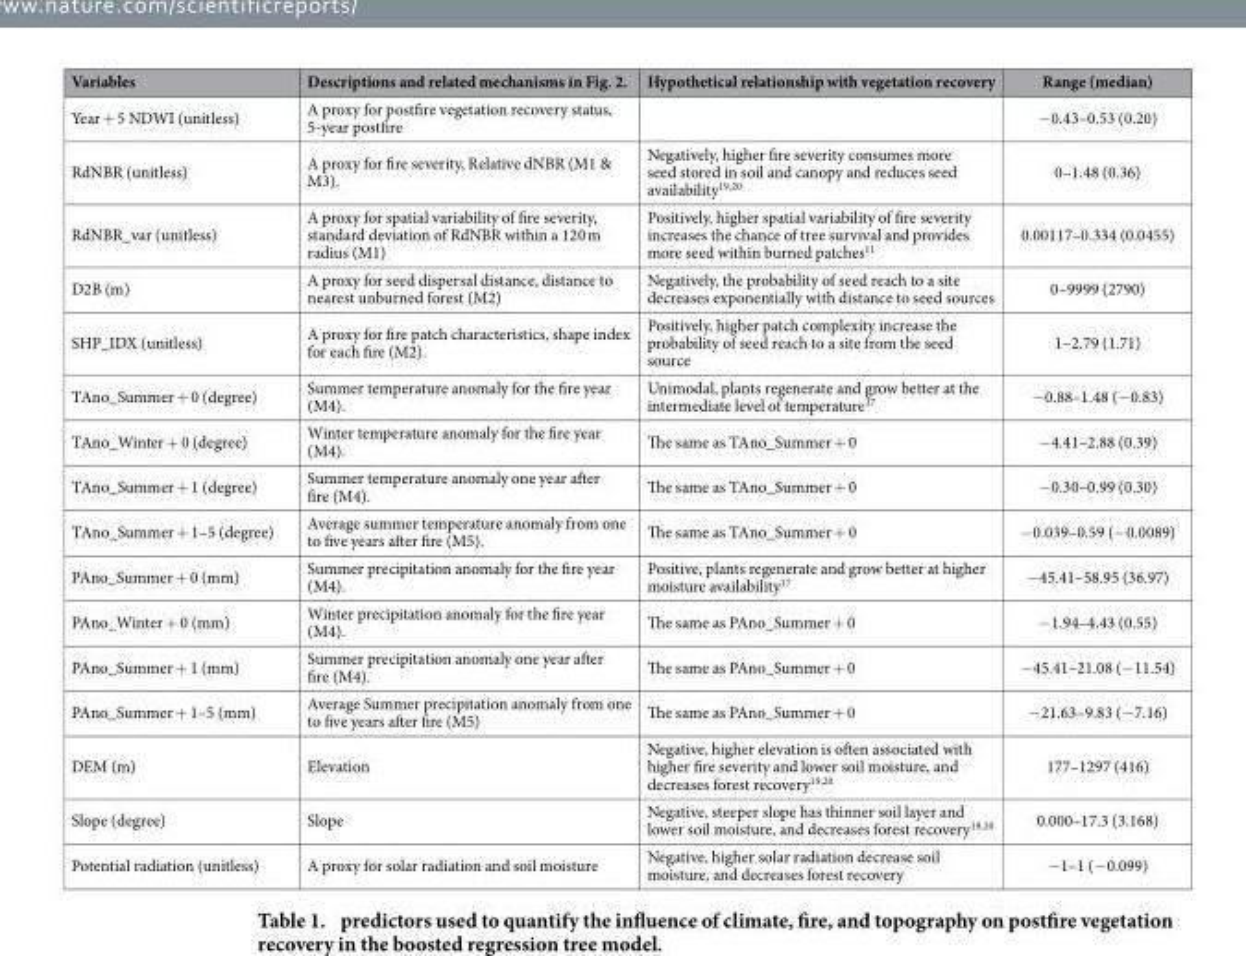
<table><thead><tr><td>Variables</td><td>Descriptions and related mechanisms in Fig. 2.</td><td>Hypothetical relationship with vegetation recovery</td><td>Range (median)</td></tr></thead><tbody><tr><td>Year + 5 NDWI (unitless)</td><td>A proxy for postfire vegetation recovery status, 5-year postfire</td><td></td><td>− 0.43–0.53 (0.20)</td></tr><tr><td>RdNBR (unitless)</td><td>A proxy for fire severity, Relative dNBR (M1 &amp; M3).</td><td>Negatively, higher fire severity consumes more seed stored in soil and canopy and reduces seed availability<sup>19</sup>,<sup>20</sup></td><td>0–1.48 (0.36)</td></tr><tr><td>RdNBR_var (unitless)</td><td>A proxy for spatial variability of fire severity, standard deviation of RdNBR within a 120 m radius (M1)</td><td>Positively, higher spatial variability of fire severity increases the chance of tree survival and provides more seed within burned patches<sup>11</sup></td><td>0.00117–0.334 (0.0455)</td></tr><tr><td>D2B (m)</td><td>A proxy for seed dispersal distance, distance to nearest unburned forest (M2)</td><td>Negatively, the probability of seed reach to a site decreases exponentially with distance to seed sources</td><td>0–9999 (2790)</td></tr><tr><td>SHP_IDX (unitless)</td><td>A proxy for fire patch characteristics, shape index for each fire (M2).</td><td>Positively, higher patch complexity increase the probability of seed reach to a site from the seed source</td><td>1–2.79 (1.71)</td></tr><tr><td>TAno_Summer + 0 (degree)</td><td>Summer temperature anomaly for the fire year (M4).</td><td>Unimodal, plants regenerate and grow better at the intermediate level of temperature<sup>17</sup></td><td>− 0.88–1.48 (− 0.83)</td></tr><tr><td>TAno_Winter + 0 (degree)</td><td>Winter temperature anomaly for the fire year (M4).</td><td>The same as TAno_Summer + 0</td><td>− 4.41–2.88 (0.39)</td></tr><tr><td>TAno_Summer + 1 (degree)</td><td>Summer temperature anomaly one year after fire (M4).</td><td>The same as TAno_Summer + 0</td><td>− 0.30–0.99 (0.30)</td></tr><tr><td>TAno_Summer + 1–5 (degree)</td><td>Average summer temperature anomaly from one to five years after fire (M5).</td><td>The same as TAno_Summer + 0</td><td>− 0.039–0.59 (− 0.0089)</td></tr><tr><td>PAno_Summer + 0 (mm)</td><td>Summer precipitation anomaly for the fire year (M4).</td><td>Positive, plants regenerate and grow better at higher moisture availability<sup>17</sup></td><td>− 45.41–58.95 (36.97)</td></tr><tr><td>PAno_Winter + 0 (mm)</td><td>Winter precipitation anomaly for the fire year (M4).</td><td>The same as PAno_Summer + 0</td><td>− 1.94–4.43 (0.55)</td></tr><tr><td>PAno_Summer + 1 (mm)</td><td>Summer precipitation anomaly one year after fire (M4).</td><td>The same as PAno_Summer + 0</td><td>− 45.41–21.08 (− 11.54)</td></tr><tr><td>PAno_Summer + 1–5 (mm)</td><td>Average Summer precipitation anomaly from one to five years after fire (M5)</td><td>The same as PAno_Summer + 0</td><td>− 21.63–9.83 (− 7.16)</td></tr><tr><td>DEM (m)</td><td>Elevation</td><td>Negative, higher elevation is often associated with higher fire severity and lower soil moisture, and decreases forest recovery<sup>19</sup>,<sup>20</sup></td><td>177–1297 (416)</td></tr><tr><td>Slope (degree)</td><td>Slope</td><td>Negative, steeper slope has thinner soil layer and lower soil moisture, and decreases forest recovery<sup>19</sup>,<sup>20</sup></td><td>0.000–17.3 (3.168)</td></tr><tr><td>Potential radiation (unitless)</td><td>A proxy for solar radiation and soil moisture</td><td>Negative, higher solar radiation decrease soil moisture, and decreases forest recovery</td><td>− 1–1 (− 0.099)</td></tr></tbody></table>